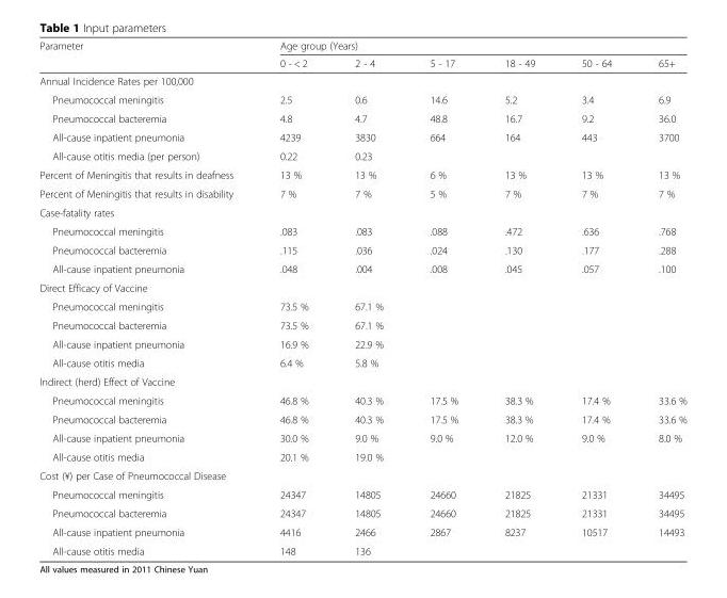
<table><thead><tr><td rowspan="2">Parameter</td><td colspan="6">Age group (Years)</td></tr><tr><td>0 - &lt; 2</td><td>2 - 4</td><td>5 - 17</td><td>18 - 49</td><td>50 - 64</td><td>65+</td></tr></thead><tbody><tr><td colspan="7">Annual Incidence Rates per 100,000</td></tr><tr><td>Pneumococcal meningitis</td><td>2.5</td><td>0.6</td><td>14.6</td><td>5.2</td><td>3.4</td><td>6.9</td></tr><tr><td>Pneumococcal bacteremia</td><td>4.8</td><td>4.7</td><td>48.8</td><td>16.7</td><td>9.2</td><td>36.0</td></tr><tr><td>All-cause inpatient pneumonia</td><td>4239</td><td>3830</td><td>664</td><td>164</td><td>443</td><td>3700</td></tr><tr><td>All-cause otitis media (per person)</td><td>0.22</td><td>0.23</td><td></td><td></td><td></td><td></td></tr><tr><td>Percent of Meningitis that results in deafness</td><td>13 %</td><td>13 %</td><td>6 %</td><td>13 %</td><td>13 %</td><td>13 %</td></tr><tr><td>Percent of Meningitis that results in disability</td><td>7 %</td><td>7 %</td><td>5 %</td><td>7 %</td><td>7 %</td><td>7 %</td></tr><tr><td colspan="7">Case-fatality rates</td></tr><tr><td>Pneumococcal meningitis</td><td>.083</td><td>.083</td><td>.088</td><td>.472</td><td>.636</td><td>.768</td></tr><tr><td>Pneumococcal bacteremia</td><td>.115</td><td>.036</td><td>.024</td><td>.130</td><td>.177</td><td>.288</td></tr><tr><td>All-cause inpatient pneumonia</td><td>.048</td><td>.004</td><td>.008</td><td>.045</td><td>.057</td><td>.100</td></tr><tr><td colspan="7">Direct Efficacy of Vaccine</td></tr><tr><td>Pneumococcal meningitis</td><td>73.5 %</td><td>67.1 %</td><td></td><td></td><td></td><td></td></tr><tr><td>Pneumococcal bacteremia</td><td>73.5 %</td><td>67.1 %</td><td></td><td></td><td></td><td></td></tr><tr><td>All-cause inpatient pneumonia</td><td>16.9 %</td><td>22.9 %</td><td></td><td></td><td></td><td></td></tr><tr><td>All-cause otitis media</td><td>6.4 %</td><td>5.8 %</td><td></td><td></td><td></td><td></td></tr><tr><td colspan="7">Indirect (herd) Effect of Vaccine</td></tr><tr><td>Pneumococcal meningitis</td><td>46.8 %</td><td>40.3 %</td><td>17.5 %</td><td>38.3 %</td><td>17.4 %</td><td>33.6 %</td></tr><tr><td>Pneumococcal bacteremia</td><td>46.8 %</td><td>40.3 %</td><td>17.5 %</td><td>38.3 %</td><td>17.4 %</td><td>33.6 %</td></tr><tr><td>All-cause inpatient pneumonia</td><td>30.0 %</td><td>9.0 %</td><td>9.0 %</td><td>12.0 %</td><td>9.0 %</td><td>8.0 %</td></tr><tr><td>All-cause otitis media</td><td>20.1 %</td><td>19.0 %</td><td></td><td></td><td></td><td></td></tr><tr><td colspan="7">Cost (¥) per Case of Pneumococcal Disease</td></tr><tr><td>Pneumococcal meningitis</td><td>24347</td><td>14805</td><td>24660</td><td>21825</td><td>21331</td><td>34495</td></tr><tr><td>Pneumococcal bacteremia</td><td>24347</td><td>14805</td><td>24660</td><td>21825</td><td>21331</td><td>34495</td></tr><tr><td>All-cause inpatient pneumonia</td><td>4416</td><td>2466</td><td>2867</td><td>8237</td><td>10517</td><td>14493</td></tr><tr><td>All-cause otitis media</td><td>148</td><td>136</td><td></td><td></td><td></td><td></td></tr></tbody></table>